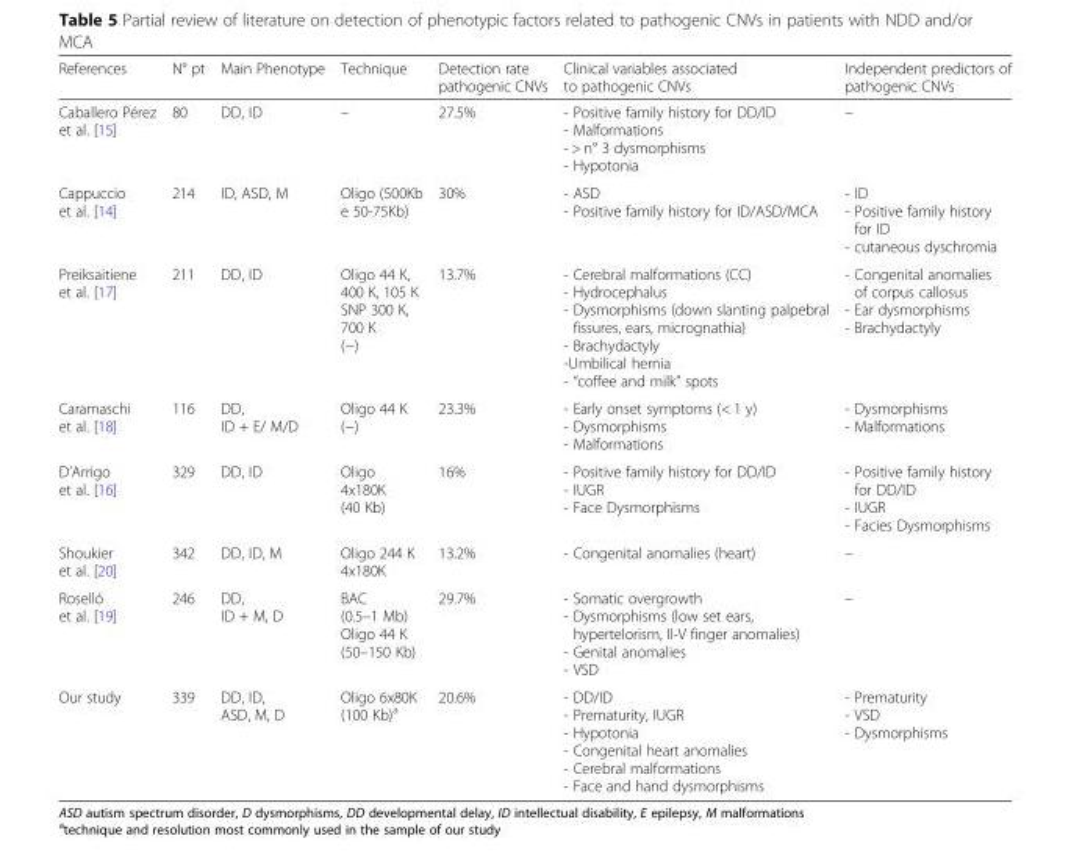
<table><thead><tr><td>References</td><td>N° pt</td><td>Main Phenotype</td><td>Technique</td><td>Detection rate pathogenic CNVs</td><td>Clinical variables associated to pathogenic CNVs</td><td>Independent predictors of pathogenic CNVs</td></tr></thead><tbody><tr><td>Caballero Pérez et al. [15]</td><td>80</td><td>DD, ID</td><td>–</td><td>27.5%</td><td>- Positive family history for DD/ID - Malformations - &gt; n° 3 dysmorphisms - Hypotonia</td><td>–</td></tr><tr><td>Cappuccio et al. [14]</td><td>214</td><td>ID, ASD, M</td><td>Oligo (500Kb e 50-75Kb)</td><td>30%</td><td>- ASD - Positive family history for ID/ASD/MCA</td><td>- ID - Positive family history for ID - cutaneous dyschromia</td></tr><tr><td>Preiksaitiene et al. [17]</td><td>211</td><td>DD, ID</td><td>Oligo 44 K, 400 K, 105 K SNP 300 K, 700 K (−)</td><td>13.7%</td><td>- Cerebral malformations (CC) - Hydrocephalus - Dysmorphisms (down slanting palpebral fissures, ears, micrognathia) - Brachydactyly -Umbilical hernia - “coffee and milk” spots</td><td>- Congenital anomalies of corpus callosus - Ear dysmorphisms - Brachydactyly</td></tr><tr><td>Caramaschi et al. [18]</td><td>116</td><td>DD, ID + E/ M/D</td><td>Oligo 44 K (−)</td><td>23.3%</td><td>- Early onset symptoms (&lt; 1 y) - Dysmorphisms - Malformations</td><td>- Dysmorphisms - Malformations</td></tr><tr><td>D’Arrigo et al. [16]</td><td>329</td><td>DD, ID</td><td>Oligo 4x180K (40 Kb)</td><td>16%</td><td>- Positive family history for DD/ID - IUGR - Face Dysmorphisms</td><td>- Positive family history for DD/ID - IUGR - Facies Dysmorphisms</td></tr><tr><td>Shoukier et al. [20]</td><td>342</td><td>DD, ID, M</td><td>Oligo 244 K 4x180K</td><td>13.2%</td><td>- Congenital anomalies (heart)</td><td>–</td></tr><tr><td>Roselló et al. [19]</td><td>246</td><td>DD, ID + M, D</td><td>BAC (0.5–1 Mb) Oligo 44 K (50–150 Kb)</td><td>29.7%</td><td>- Somatic overgrowth - Dysmorphisms (low set ears, hypertelorism, II-V finger anomalies) - Genital anomalies - VSD</td><td>–</td></tr><tr><td>Our study</td><td>339</td><td>DD, ID, ASD, M, D</td><td>Oligo 6x80K (100 Kb)<sup>a</sup></td><td>20.6%</td><td>- DD/ID - Prematurity, IUGR - Hypotonia - Congenital heart anomalies - Cerebral malformations - Face and hand dysmorphisms</td><td>- Prematurity - VSD - Dysmorphisms</td></tr></tbody></table>